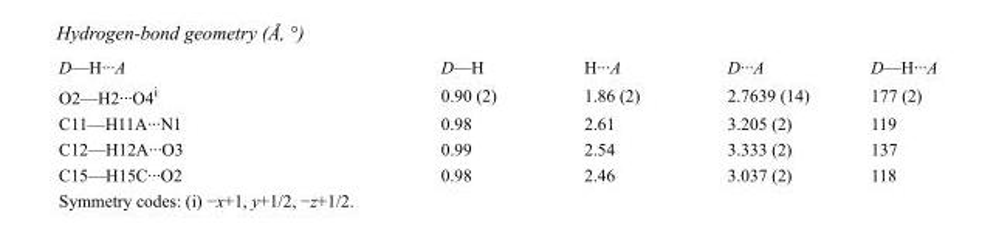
<table><tbody><tr><td>D—H···A</td><td>D—H</td><td>H···A</td><td>D···A</td><td>D—H···A</td></tr><tr><td>O2—H2···O4<sup>i</sup></td><td>0.90 (2)</td><td>1.86 (2)</td><td>2.7639 (14)</td><td>177 (2)</td></tr><tr><td>C11—H11A···N1</td><td>0.98</td><td>2.61</td><td>3.205 (2)</td><td>119</td></tr><tr><td>C12—H12A···O3</td><td>0.99</td><td>2.54</td><td>3.333 (2)</td><td>137</td></tr><tr><td>C15—H15C···O2</td><td>0.98</td><td>2.46</td><td>3.037 (2)</td><td>118</td></tr></tbody></table>